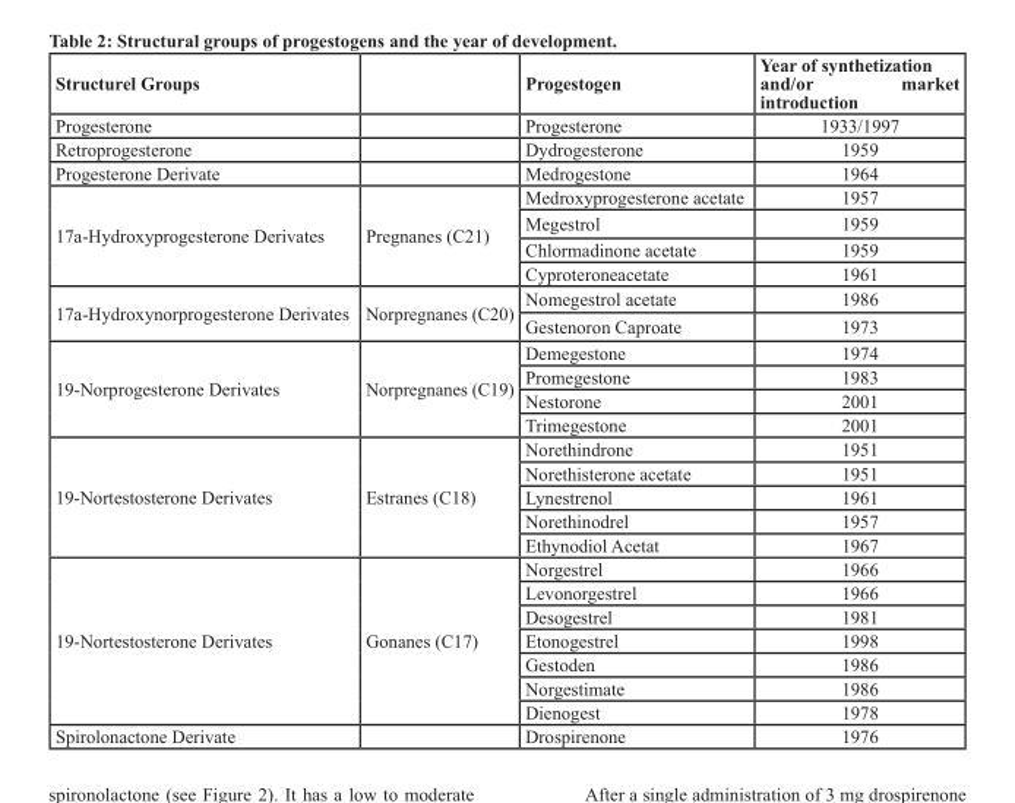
<table><thead><tr><td>Structurel Groups</td><td></td><td>Progestogen</td><td>Year of synthetization and/or market introduction</td></tr></thead><tbody><tr><td>Progesterone</td><td></td><td>Progesterone</td><td>1933/1997</td></tr><tr><td>Retroprogesterone</td><td></td><td>Dydrogesterone</td><td>1959</td></tr><tr><td>Progesterone Derivate</td><td></td><td>Medrogestone</td><td>1964</td></tr><tr><td rowspan="4">17a-Hydroxyprogesterone Derivates</td><td rowspan="4">Pregnanes (C21)</td><td>Medroxyprogesterone acetate</td><td>1957</td></tr><tr><td>Megestrol</td><td>1959</td></tr><tr><td>Chlormadinone acetate</td><td>1959</td></tr><tr><td>Cyproteroneacetate</td><td>1961</td></tr><tr><td rowspan="2">17a-Hydroxynorprogesterone Derivates</td><td rowspan="2">Norpregnanes (C20)</td><td>Nomegestrol acetate</td><td>1986</td></tr><tr><td>Gestenoron Caproate</td><td>1973</td></tr><tr><td rowspan="4">19-Norprogesterone Derivates</td><td rowspan="4">Norpregnanes (C19)</td><td>Demegestone</td><td>1974</td></tr><tr><td>Promegestone</td><td>1983</td></tr><tr><td>Nestorone</td><td>2001</td></tr><tr><td>Trimegestone</td><td>2001</td></tr><tr><td rowspan="5">19-Nortestosterone Derivates</td><td rowspan="5">Estranes (C18)</td><td>Norethindrone</td><td>1951</td></tr><tr><td>Norethisterone acetate</td><td>1951</td></tr><tr><td>Lynestrenol</td><td>1961</td></tr><tr><td>Norethinodrel</td><td>1957</td></tr><tr><td>Ethynodiol Acetat</td><td>1967</td></tr><tr><td rowspan="7">19-Nortestosterone Derivates</td><td rowspan="7">Gonanes (C17)</td><td>Norgestrel</td><td>1966</td></tr><tr><td>Levonorgestrel</td><td>1966</td></tr><tr><td>Desogestrel</td><td>1981</td></tr><tr><td>Etonogestrel</td><td>1998</td></tr><tr><td>Gestoden</td><td>1986</td></tr><tr><td>Norgestimate</td><td>1986</td></tr><tr><td>Dienogest</td><td>1978</td></tr><tr><td>Spirolonactone Derivate</td><td></td><td>Drospirenone</td><td>1976</td></tr></tbody></table>